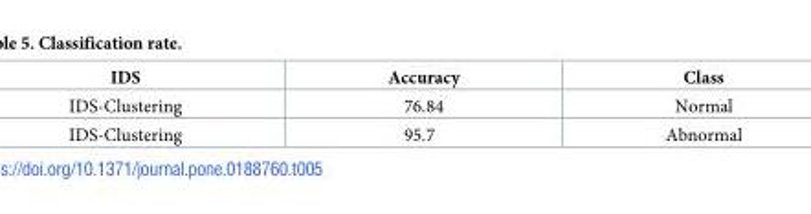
<table><thead><tr><td>IDS</td><td>Accuracy</td><td>Class</td></tr></thead><tbody><tr><td>IDS-Clustering</td><td>76.84</td><td>Normal</td></tr><tr><td>IDS-Clustering</td><td>95.7</td><td>Abnormal</td></tr></tbody></table>